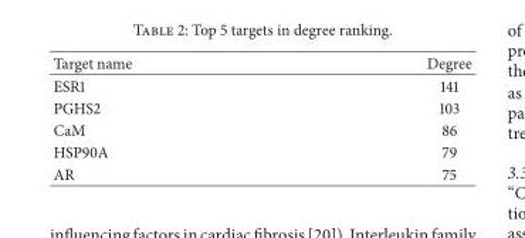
<table><thead><tr><td>Target name</td><td>Degree</td></tr></thead><tbody><tr><td>ESR1</td><td>141</td></tr><tr><td>PGHS2</td><td>103</td></tr><tr><td>CaM</td><td>86</td></tr><tr><td>HSP90A</td><td>79</td></tr><tr><td>AR</td><td>75</td></tr></tbody></table>